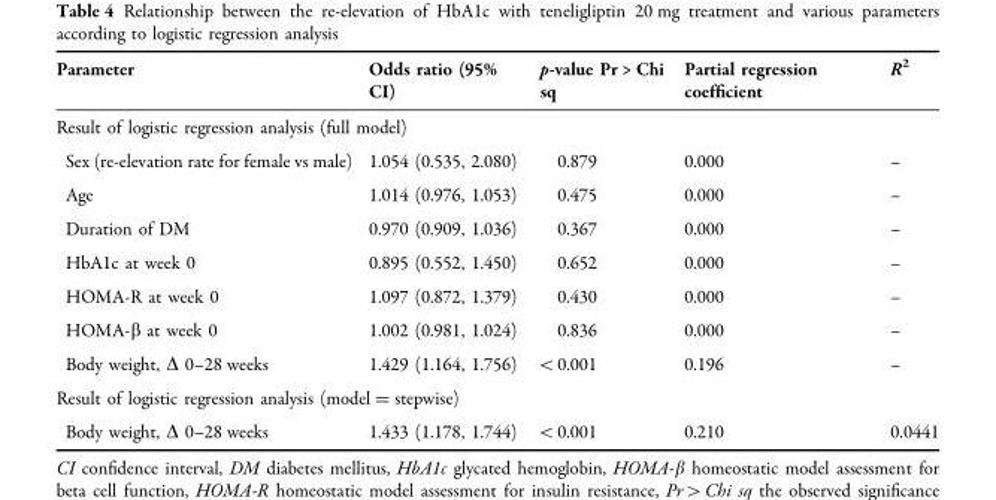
<table><thead><tr><td>Parameter</td><td>Odds ratio (95% CI)</td><td>p-value Pr &gt; Chi sq</td><td>Partial regression coefficient</td><td>R<sup>2</sup></td></tr></thead><tbody><tr><td colspan="5">Result of logistic regression analysis (full model)</td></tr><tr><td>Sex (re-elevation rate for female vs male)</td><td>1.054 (0.535, 2.080)</td><td>0.879</td><td>0.000</td><td>–</td></tr><tr><td>Age</td><td>1.014 (0.976, 1.053)</td><td>0.475</td><td>0.000</td><td>–</td></tr><tr><td>Duration of DM</td><td>0.970 (0.909, 1.036)</td><td>0.367</td><td>0.000</td><td>–</td></tr><tr><td>HbA1c at week 0</td><td>0.895 (0.552, 1.450)</td><td>0.652</td><td>0.000</td><td>–</td></tr><tr><td>HOMA-R at week 0</td><td>1.097 (0.872, 1.379)</td><td>0.430</td><td>0.000</td><td>–</td></tr><tr><td>HOMA-β at week 0</td><td>1.002 (0.981, 1.024)</td><td>0.836</td><td>0.000</td><td>–</td></tr><tr><td>Body weight, ∆ 0–28 weeks</td><td>1.429 (1.164, 1.756)</td><td>&lt;0.001</td><td>0.196</td><td>–</td></tr><tr><td colspan="5">Result of logistic regression analysis (model = stepwise)</td></tr><tr><td>Body weight, ∆ 0–28 weeks</td><td>1.433 (1.178, 1.744)</td><td>&lt;0.001</td><td>0.210</td><td>0.0441</td></tr></tbody></table>